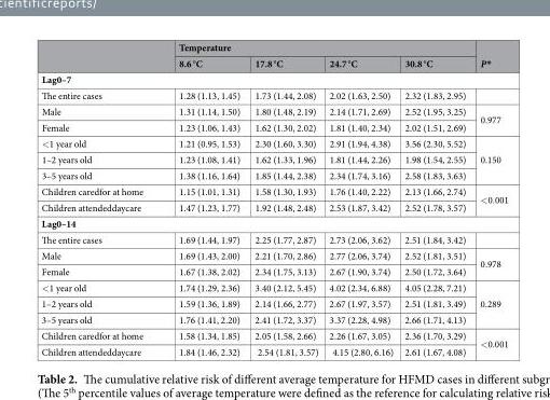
<table><thead><tr><td rowspan="2"></td><td colspan="4">Temperature</td><td rowspan="2">P*</td></tr><tr><td>8.6 °C</td><td>17.8 °C</td><td>24.7 °C</td><td>30.8 °C</td></tr></thead><tbody><tr><td colspan="6">Lag0–7</td></tr><tr><td>The entire cases</td><td>1.28 (1.13, 1.45)</td><td>1.73 (1.44, 2.08)</td><td>2.02 (1.63, 2.50)</td><td>2.32 (1.83, 2.95)</td><td></td></tr><tr><td>Male</td><td>1.31 (1.14, 1.50)</td><td>1.80 (1.48, 2.19)</td><td>2.14 (1.71, 2.69)</td><td>2.52 (1.95, 3.25)</td><td rowspan="2">0.977</td></tr><tr><td>Female</td><td>1.23 (1.06, 1.43)</td><td>1.62 (1.30, 2.02)</td><td>1.81 (1.40, 2.34)</td><td>2.02 (1.51, 2.69)</td></tr><tr><td>&lt;1 year old</td><td>1.21 (0.95, 1.53)</td><td>2.30 (1.60, 3.30)</td><td>2.91 (1.94, 4.38)</td><td>3.56 (2.30, 5.52)</td><td rowspan="3">0.150</td></tr><tr><td>1–2 years old</td><td>1.23 (1.08, 1.41)</td><td>1.62 (1.33, 1.96)</td><td>1.81 (1.44, 2.26)</td><td>1.98 (1.54, 2.55)</td></tr><tr><td>3–5 years old</td><td>1.38 (1.16, 1.64)</td><td>1.85 (1.44, 2.38)</td><td>2.34 (1.74, 3.16)</td><td>2.58 (1.83, 3.63)</td></tr><tr><td>Children caredfor at home</td><td>1.15 (1.01, 1.31)</td><td>1.58 (1.30, 1.93)</td><td>1.76 (1.40, 2.22)</td><td>2.13 (1.66, 2.74)</td><td rowspan="2">&lt;0.001</td></tr><tr><td>Children attendeddaycare</td><td>1.47 (1.23, 1.77)</td><td>1.92 (1.48, 2.48)</td><td>2.53 (1.87, 3.42)</td><td>2.52 (1.78, 3.57)</td></tr><tr><td colspan="6">Lag0–14</td></tr><tr><td>The entire cases</td><td>1.69 (1.44, 1.97)</td><td>2.25 (1.77, 2.87)</td><td>2.73 (2.06, 3.62)</td><td>2.51 (1.84, 3.42)</td><td></td></tr><tr><td>Male</td><td>1.69 (1.43, 2.00)</td><td>2.21 (1.70, 2.86)</td><td>2.77 (2.06, 3.74)</td><td>2.52 (1.81, 3.51)</td><td rowspan="2">0.978</td></tr><tr><td>Female</td><td>1.67 (1.38, 2.02)</td><td>2.34 (1.75, 3.13)</td><td>2.67 (1.90, 3.74)</td><td>2.50 (1.72, 3.64)</td></tr><tr><td>&lt;1 year old</td><td>1.74 (1.29, 2.36)</td><td>3.40 (2.12, 5.45)</td><td>4.02 (2.34, 6.88)</td><td>4.05 (2.28, 7.21)</td><td rowspan="3">0.289</td></tr><tr><td>1–2 years old</td><td>1.59 (1.36, 1.89)</td><td>2.14 (1.66, 2.77)</td><td>2.67 (1.97, 3.57)</td><td>2.51 (1.81, 3.49)</td></tr><tr><td>3–5 years old</td><td>1.76 (1.41, 2.20)</td><td>2.41 (1.72, 3.37)</td><td>3.37 (2.28, 4.98)</td><td>2.66 (1.71, 4.13)</td></tr><tr><td>Children caredfor at home</td><td>1.58 (1.34, 1.85)</td><td>2.05 (1.58, 2.66)</td><td>2.26 (1.67, 3.05)</td><td>2.36 (1.70, 3.29)</td><td rowspan="2">&lt;0.001</td></tr><tr><td>Children attendeddaycare</td><td>1.84 (1.46, 2.32)</td><td>2.54 (1.81, 3.57)</td><td>4.15 (2.80, 6.16)</td><td>2.61 (1.67, 4.08)</td></tr></tbody></table>